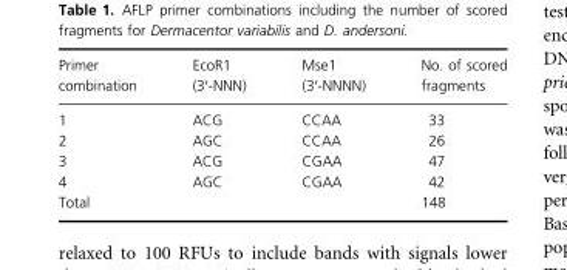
<table><thead><tr><td>Primer combination</td><td>EcoR1 (3′-NNN)</td><td>Mse1 (3′-NNNN)</td><td>No. of scored fragments</td></tr></thead><tbody><tr><td>1</td><td>ACG</td><td>CCAA</td><td>33</td></tr><tr><td>2</td><td>AGC</td><td>CCAA</td><td>26</td></tr><tr><td>3</td><td>ACG</td><td>CGAA</td><td>47</td></tr><tr><td>4</td><td>AGC</td><td>CGAA</td><td>42</td></tr><tr><td>Total</td><td></td><td></td><td>148</td></tr></tbody></table>